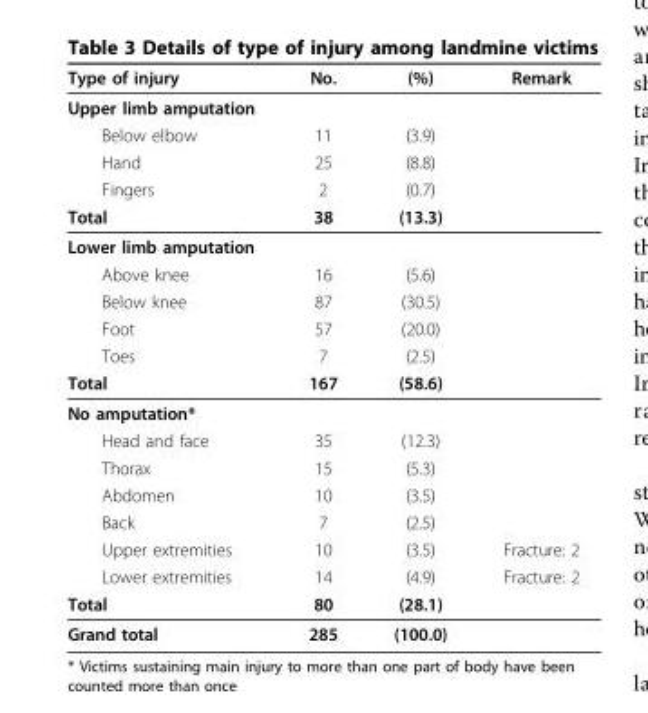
<table><thead><tr><td>Type of injury</td><td>No.</td><td>(%)</td><td>Remark</td></tr></thead><tbody><tr><td colspan="4">Upper limb amputation</td></tr><tr><td>Below elbow</td><td>11</td><td>(3.9)</td><td></td></tr><tr><td>Hand</td><td>25</td><td>(8.8)</td><td></td></tr><tr><td>Fingers</td><td>2</td><td>(0.7)</td><td></td></tr><tr><td>Total</td><td>38</td><td>(13.3)</td><td></td></tr><tr><td colspan="4">Lower limb amputation</td></tr><tr><td>Above knee</td><td>16</td><td>(5.6)</td><td></td></tr><tr><td>Below knee</td><td>87</td><td>(30.5)</td><td></td></tr><tr><td>Foot</td><td>57</td><td>(20.0)</td><td></td></tr><tr><td>Toes</td><td>7</td><td>(2.5)</td><td></td></tr><tr><td>Total</td><td>167</td><td>(58.6)</td><td></td></tr><tr><td colspan="4">No amputation*</td></tr><tr><td>Head and face</td><td>35</td><td>(12.3)</td><td></td></tr><tr><td>Thorax</td><td>15</td><td>(5.3)</td><td></td></tr><tr><td>Abdomen</td><td>10</td><td>(3.5)</td><td></td></tr><tr><td>Back</td><td>7</td><td>(2.5)</td><td></td></tr><tr><td>Upper extremities</td><td>10</td><td>(3.5)</td><td>Fracture: 2</td></tr><tr><td>Lower extremities</td><td>14</td><td>(4.9)</td><td>Fracture: 2</td></tr><tr><td>Total</td><td>80</td><td>(28.1)</td><td></td></tr><tr><td>Grand total</td><td>285</td><td>(100.0)</td><td></td></tr></tbody></table>